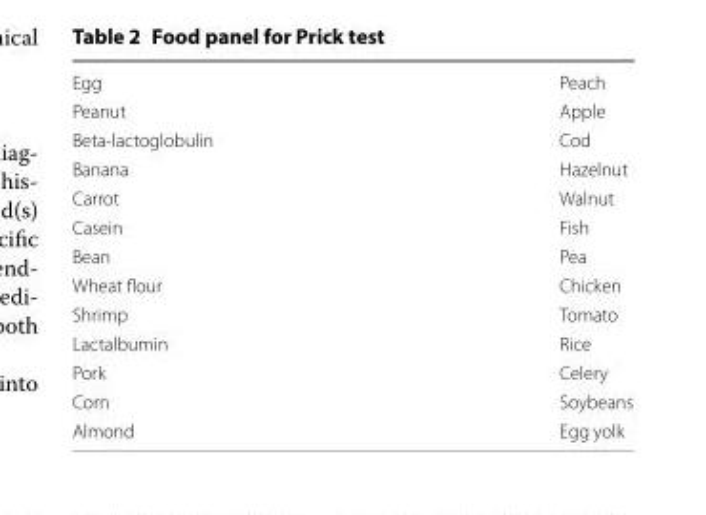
<table><tbody><tr><td>Egg</td><td>Peach</td></tr><tr><td>Peanut</td><td>Apple</td></tr><tr><td>Beta‑lactoglobulin</td><td>Cod</td></tr><tr><td>Banana</td><td>Hazelnut</td></tr><tr><td>Carrot</td><td>Walnut</td></tr><tr><td>Casein</td><td>Fish</td></tr><tr><td>Bean</td><td>Pea</td></tr><tr><td>Wheat flour</td><td>Chicken</td></tr><tr><td>Shrimp</td><td>Tomato</td></tr><tr><td>Lactalbumin</td><td>Rice</td></tr><tr><td>Pork</td><td>Celery</td></tr><tr><td>Corn</td><td>Soybeans</td></tr><tr><td>Almond</td><td>Egg yolk</td></tr></tbody></table>